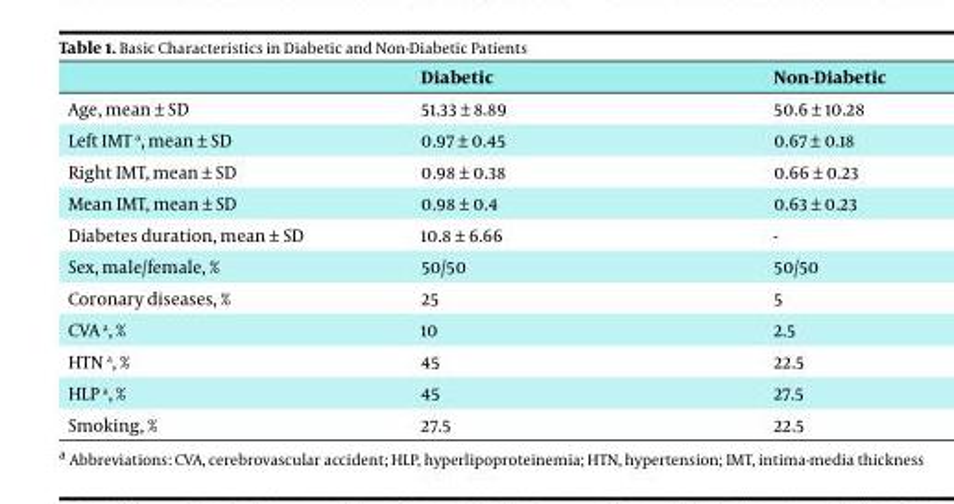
<table><thead><tr><td></td><td>diabetic</td><td>non-diabetic</td></tr></thead><tbody><tr><td>Age, mean ± SD</td><td>51.33 ± 8.89</td><td>50.6 ± 10.28</td></tr><tr><td>Left IMT <sup>a</sup>, mean ± SD</td><td>0.97 ± 0.45</td><td>0.67 ± 0.18</td></tr><tr><td>Right IMT, mean ± SD</td><td>0.98 ± 0.38</td><td>0.66 ± 0.23</td></tr><tr><td>Mean IMT, mean ± SD</td><td>0.98 ± 0.4</td><td>0.63 ± 0.23</td></tr><tr><td>Diabetes duration, mean ± SD</td><td>10.8 ± 6.66</td><td>-</td></tr><tr><td>Sex, male/female, %</td><td>50/50</td><td>50/50</td></tr><tr><td>Coronary diseases, %</td><td>25</td><td>5</td></tr><tr><td>CVA <sup>a</sup>, %</td><td>10</td><td>2.5</td></tr><tr><td>HTN <sup>a</sup>, %</td><td>45</td><td>22.5</td></tr><tr><td>HLP <sup>a</sup>, %</td><td>45</td><td>27.5</td></tr><tr><td>Smoking, %</td><td>27.5</td><td>22.5</td></tr></tbody></table>